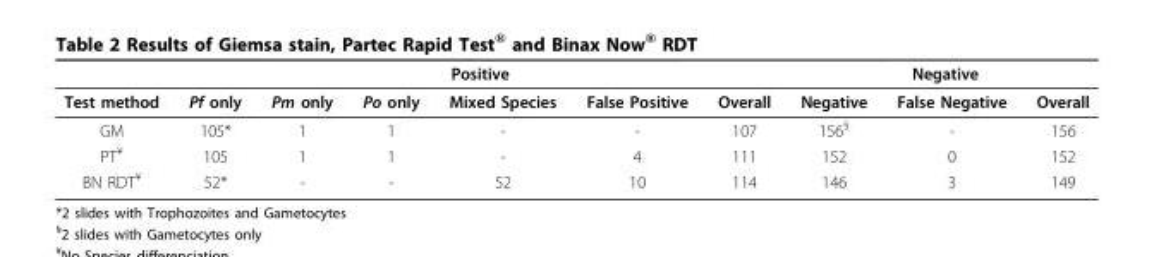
<table><thead><tr><td rowspan="2">Test method</td><td colspan="6">Positive</td><td colspan="3">Negative</td></tr><tr><td>Pf only</td><td>Pm only</td><td>Po only</td><td>Mixed Species</td><td>False Positive</td><td>Overall</td><td>Negative</td><td>False Negative</td><td>Overall</td></tr></thead><tbody><tr><td>GM</td><td>105*</td><td>1</td><td>1</td><td>-</td><td>-</td><td>107</td><td>156<sup>§</sup></td><td>-</td><td>156</td></tr><tr><td>PT<sup>¥</sup></td><td>105</td><td>1</td><td>1</td><td>-</td><td>4</td><td>111</td><td>152</td><td>0</td><td>152</td></tr><tr><td>BN RDT<sup>¥</sup></td><td>52*</td><td>-</td><td>-</td><td>52</td><td>10</td><td>114</td><td>146</td><td>3</td><td>149</td></tr></tbody></table>